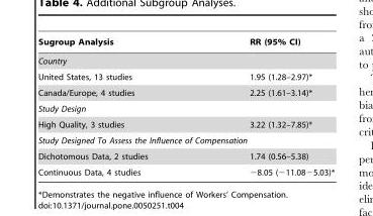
<table><thead><tr><td>Sugroup Analysis</td><td>RR (95% CI)</td></tr></thead><tbody><tr><td colspan="2">Country</td></tr><tr><td>United States, 13 studies</td><td>1.95 (1.28–2.97)*</td></tr><tr><td>Canada/Europe, 4 studies</td><td>2.25 (1.61–3.14)*</td></tr><tr><td colspan="2">Study Design</td></tr><tr><td>High Quality, 3 studies</td><td>3.22 (1.32–7.85)*</td></tr><tr><td colspan="2">Study Designed To Assess the Influence of Compensation</td></tr><tr><td>Dichotomous Data, 2 studies</td><td>1.74 (0.56–5.38)</td></tr><tr><td>Continuous Data, 4 studies</td><td>−8.05 (−11.08−5.03)*</td></tr></tbody></table>